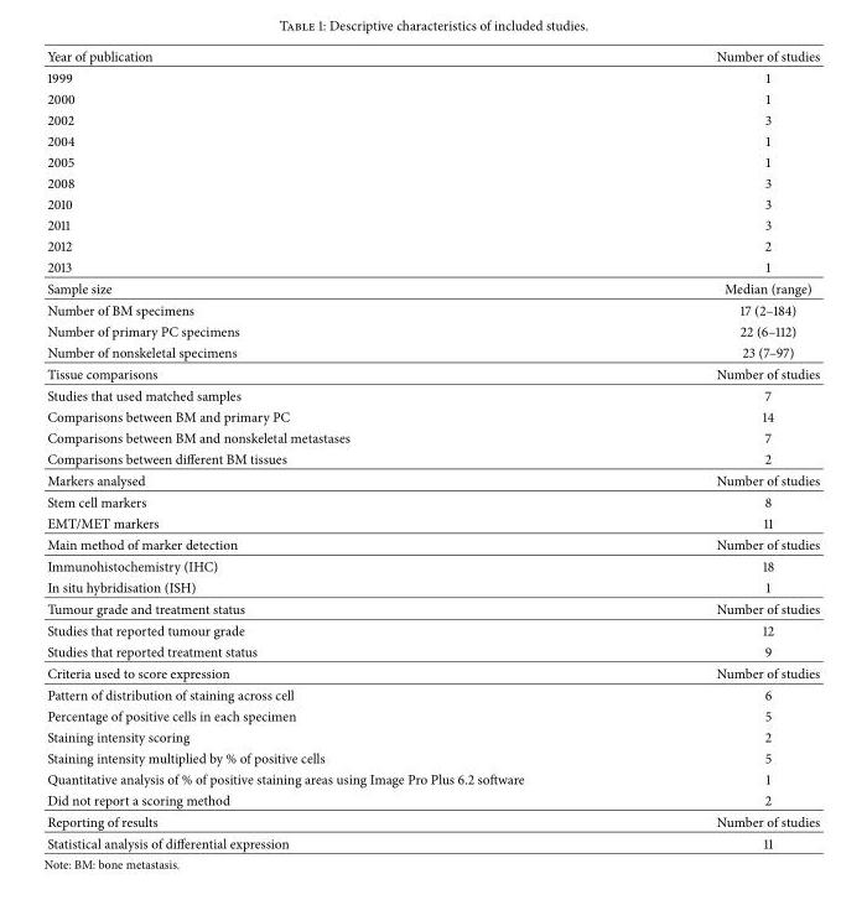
<table><tbody><tr><td>Year of publication</td><td>Number of studies</td></tr><tr><td>1999</td><td>1</td></tr><tr><td>2000</td><td>1</td></tr><tr><td>2002</td><td>3</td></tr><tr><td>2004</td><td>1</td></tr><tr><td>2005</td><td>1</td></tr><tr><td>2008</td><td>3</td></tr><tr><td>2010</td><td>3</td></tr><tr><td>2011</td><td>3</td></tr><tr><td>2012</td><td>2</td></tr><tr><td>2013</td><td>1</td></tr><tr><td>Sample size</td><td>Median (range)</td></tr><tr><td>Number of BM specimens</td><td>17 (2–184)</td></tr><tr><td>Number of primary PC specimens</td><td>22 (6–112)</td></tr><tr><td>Number of nonskeletal specimens</td><td>23 (7–97)</td></tr><tr><td>Tissue comparisons</td><td>Number of studies</td></tr><tr><td>Studies that used matched samples</td><td>7</td></tr><tr><td>Comparisons between BM and primary PC</td><td>14</td></tr><tr><td>Comparisons between BM and nonskeletal metastases</td><td>7</td></tr><tr><td>Comparisons between different BM tissues</td><td>2</td></tr><tr><td>Markers analysed</td><td>Number of studies</td></tr><tr><td>Stem cell markers</td><td>8</td></tr><tr><td>EMT/MET markers</td><td>11</td></tr><tr><td>Main method of marker detection</td><td>Number of studies</td></tr><tr><td>Immunohistochemistry (IHC)</td><td>18</td></tr><tr><td>In situ hybridisation (ISH)</td><td>1</td></tr><tr><td>Tumour grade and treatment status</td><td>Number of studies</td></tr><tr><td>Studies that reported tumour grade</td><td>12</td></tr><tr><td>Studies that reported treatment status</td><td>9</td></tr><tr><td>Criteria used to score expression</td><td>Number of studies</td></tr><tr><td>Pattern of distribution of staining across cell</td><td>6</td></tr><tr><td>Percentage of positive cells in each specimen</td><td>5</td></tr><tr><td>Staining intensity scoring</td><td>2</td></tr><tr><td>Staining intensity multiplied by % of positive cells</td><td>5</td></tr><tr><td>Quantitative analysis of % of positive staining areas using Image Pro Plus 6.2 software</td><td>1</td></tr><tr><td>Did not report a scoring method</td><td>2</td></tr><tr><td>Reporting of results</td><td>Number of studies</td></tr><tr><td>Statistical analysis of differential expression</td><td>11</td></tr></tbody></table>